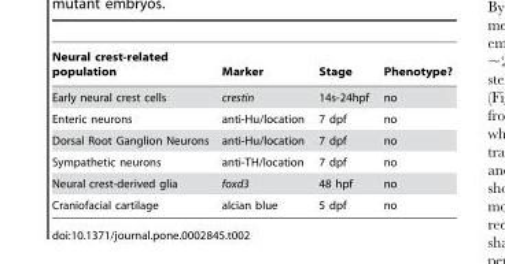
<table><thead><tr><td>Neural crest-related population</td><td>Marker</td><td>Stage</td><td>Phenotype?</td></tr></thead><tbody><tr><td>Early neural crest cells</td><td>crestin</td><td>14s-24hpf</td><td>no</td></tr><tr><td>Enteric neurons</td><td>anti-Hu/location</td><td>7 dpf</td><td>no</td></tr><tr><td>Dorsal Root Ganglion Neurons</td><td>anti-Hu/location</td><td>7 dpf</td><td>no</td></tr><tr><td>Sympathetic neurons</td><td>anti-TH/location</td><td>7 dpf</td><td>no</td></tr><tr><td>Neural crest-derived glia</td><td>foxd3</td><td>48 hpf</td><td>no</td></tr><tr><td>Craniofacial cartilage</td><td>alcian blue</td><td>5 dpf</td><td>no</td></tr></tbody></table>